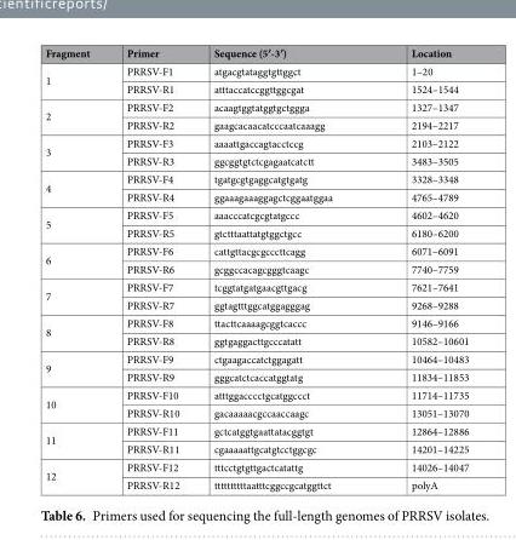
<table><thead><tr><td>Fragment</td><td>Primer</td><td>Sequence (5′-3′)</td><td>Location</td></tr></thead><tbody><tr><td rowspan="2">1</td><td>PRRSV-F1</td><td>atgacgtataggtgttggct</td><td>1–20</td></tr><tr><td>PRRSV-R1</td><td>atttaccatccggttggcgat</td><td>1524–1544</td></tr><tr><td rowspan="2">2</td><td>PRRSV-F2</td><td>acaagtggtatggtgctggga</td><td>1327–1347</td></tr><tr><td>PRRSV-R2</td><td>gaagcacaacatcccaatcaaagg</td><td>2194–2217</td></tr><tr><td rowspan="2">3</td><td>PRRSV-F3</td><td>aaaattgaccagtacctccg</td><td>2103–2122</td></tr><tr><td>PRRSV-R3</td><td>ggcggtgtctcgagaatcatctt</td><td>3483–3505</td></tr><tr><td rowspan="2">4</td><td>PRRSV-F4</td><td>tgatgcgtgaggcatgtgatg</td><td>3328–3348</td></tr><tr><td>PRRSV-R4</td><td>ggaaagaaaggagctcggaatggaa</td><td>4765–4789</td></tr><tr><td rowspan="2">5</td><td>PRRSV-F5</td><td>aaacccatcgcgtatgccc</td><td>4602–4620</td></tr><tr><td>PRRSV-R5</td><td>gtctttaattatgtggctgcc</td><td>6180–6200</td></tr><tr><td rowspan="2">6</td><td>PRRSV-F6</td><td>cattgttacgcgcccttcagg</td><td>6071–6091</td></tr><tr><td>PRRSV-R6</td><td>gcggccacagcgggtcaagc</td><td>7740–7759</td></tr><tr><td rowspan="2">7</td><td>PRRSV-F7</td><td>tcggtatgatgaacgttgacg</td><td>7621–7641</td></tr><tr><td>PRRSV-R7</td><td>ggtagtttggcatggagggag</td><td>9268–9288</td></tr><tr><td rowspan="2">8</td><td>PRRSV-F8</td><td>ttacttcaaaagcggtcaccc</td><td>9146–9166</td></tr><tr><td>PRRSV-R8</td><td>ggtgaggacttgcccatatt</td><td>10582–10601</td></tr><tr><td rowspan="2">9</td><td>PRRSV-F9</td><td>ctgaagaccatctggagatt</td><td>10464–10483</td></tr><tr><td>PRRSV-R9</td><td>gggcatctcaccatggtatg</td><td>11834–11853</td></tr><tr><td rowspan="2">10</td><td>PRRSV-F10</td><td>atttggacccctgcatggccct</td><td>11714–11735</td></tr><tr><td>PRRSV-R10</td><td>gacaaaaacgccaaccaagc</td><td>13051–13070</td></tr><tr><td rowspan="2">11</td><td>PRRSV-F11</td><td>gctcatggtgaattatacggtgt</td><td>12864–12886</td></tr><tr><td>PRRSV-R11</td><td>cgaaaaattgcatgtcctggcgc</td><td>14201–14225</td></tr><tr><td rowspan="2">12</td><td>PRRSV-F12</td><td>tttcctgtgttgactcatattg</td><td>14026–14047</td></tr><tr><td>PRRSV-R12</td><td>ttttttttttaatttcggccgcatggttct</td><td>polyA</td></tr></tbody></table>